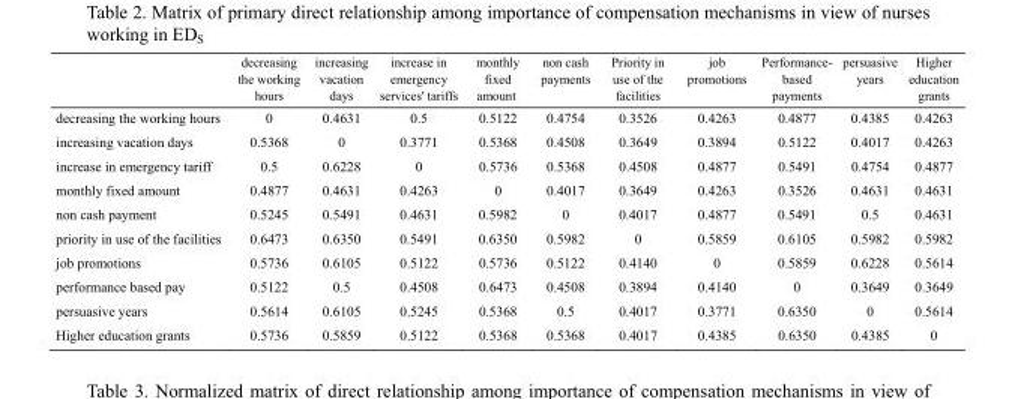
<table><thead><tr><td></td><td>decreasing the working hours</td><td>increasing vacation days</td><td>increase in emergency services&#x27; tariffs</td><td>monthly fixed amount</td><td>non cash payments</td><td>Priority in use of the facilities</td><td>job promotions</td><td>Performance- based payments</td><td>persuasive years</td><td>Higher education grants</td></tr></thead><tbody><tr><td>decreasing the working hours</td><td>0</td><td>0.4631</td><td>0.5</td><td>0.5122</td><td>0.4754</td><td>0.3526</td><td>0.4263</td><td>0.4877</td><td>0.4385</td><td>0.4263</td></tr><tr><td>increasing vacation days</td><td>0.5368</td><td>0</td><td>0.3771</td><td>0.5368</td><td>0.4508</td><td>0.3649</td><td>0.3894</td><td>0.5122</td><td>0.4017</td><td>0.4263</td></tr><tr><td>increase in emergency tariff</td><td>0.5</td><td>0.6228</td><td>0</td><td>0.5736</td><td>0.5368</td><td>0.4508</td><td>0.4877</td><td>0.5491</td><td>0.4754</td><td>0.4877</td></tr><tr><td>monthly fixed amount</td><td>0.4877</td><td>0.4631</td><td>0.4263</td><td>0</td><td>0.4017</td><td>0.3649</td><td>0.4263</td><td>0.3526</td><td>0.4631</td><td>0.4631</td></tr><tr><td>non cash payment</td><td>0.5245</td><td>0.5491</td><td>0.4631</td><td>0.5982</td><td>0</td><td>0.4017</td><td>0.4877</td><td>0.5491</td><td>0.5</td><td>0.4631</td></tr><tr><td>priority in use of the facilities</td><td>0.6473</td><td>0.6350</td><td>0.5491</td><td>0.6350</td><td>0.5982</td><td>0</td><td>0.5859</td><td>0.6105</td><td>0.5982</td><td>0.5982</td></tr><tr><td>job promotions</td><td>0.5736</td><td>0.6105</td><td>0.5122</td><td>0.5736</td><td>0.5122</td><td>0.4140</td><td>0</td><td>0.5859</td><td>0.6228</td><td>0.5614</td></tr><tr><td>performance based pay</td><td>0.5122</td><td>0.5</td><td>0.4508</td><td>0.6473</td><td>0.4508</td><td>0.3894</td><td>0.4140</td><td>0</td><td>0.3649</td><td>0.3649</td></tr><tr><td>persuasive years</td><td>0.5614</td><td>0.6105</td><td>0.5245</td><td>0.5368</td><td>0.5</td><td>0.4017</td><td>0.3771</td><td>0.6350</td><td>0</td><td>0.5614</td></tr><tr><td>Higher education grants</td><td>0.5736</td><td>0.5859</td><td>0.5122</td><td>0.5368</td><td>0.5368</td><td>0.4017</td><td>0.4385</td><td>0.6350</td><td>0.4385</td><td>0</td></tr></tbody></table>